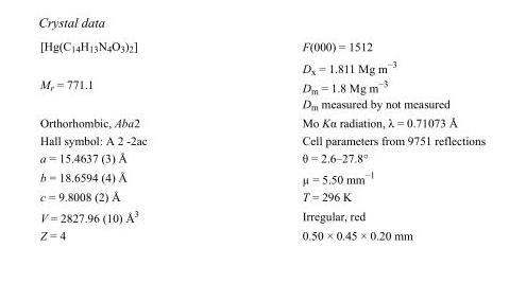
<table><tbody><tr><td>[Hg(C<sub>14</sub>H<sub>13</sub>N<sub>4</sub>O<sub>3</sub>)<sub>2</sub>]</td><td>F(000) = 1512</td></tr><tr><td>M<sub>r</sub> = 771.1</td><td>D<sub>x</sub> = 1.811 Mg m<sup>−3</sup> D<sub>m</sub> = 1.8 Mg m<sup>−3</sup> D<sub>m</sub> measured by not measured</td></tr><tr><td>Orthorhombic, Aba2</td><td>Mo Kα radiation, λ = 0.71073 Å</td></tr><tr><td>Hall symbol: A 2 -2ac</td><td>Cell parameters from 9751 reflections</td></tr><tr><td>a = 15.4637 (3) Å</td><td>θ = 2.6–27.8°</td></tr><tr><td>b = 18.6594 (4) Å</td><td>µ = 5.50 mm<sup>−1</sup></td></tr><tr><td>c = 9.8008 (2) Å</td><td>T = 296 K</td></tr><tr><td>V = 2827.96 (10) Å<sup>3</sup></td><td>Irregular, red</td></tr><tr><td>Z = 4</td><td>0.50 × 0.45 × 0.20 mm</td></tr></tbody></table>